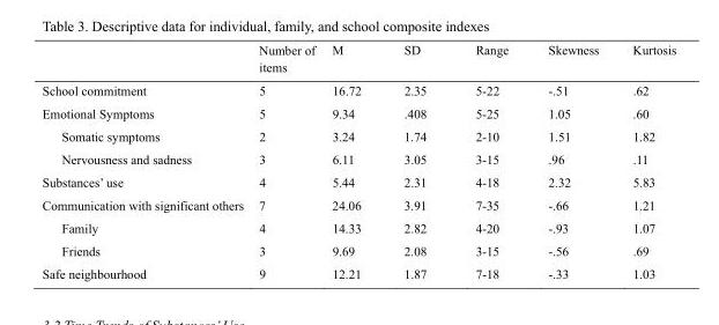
<table><thead><tr><td></td><td>Number of items</td><td>M</td><td>SD</td><td>Range</td><td>Skewness</td><td>Kurtosis</td></tr></thead><tbody><tr><td>School commitment</td><td>5</td><td>16.72</td><td>2.35</td><td>5-22</td><td>-.51</td><td>.62</td></tr><tr><td>Emotional Symptoms</td><td>5</td><td>9.34</td><td>.408</td><td>5-25</td><td>1.05</td><td>.60</td></tr><tr><td>Somatic symptoms</td><td>2</td><td>3.24</td><td>1.74</td><td>2-10</td><td>1.51</td><td>1.82</td></tr><tr><td>Nervousness and sadness</td><td>3</td><td>6.11</td><td>3.05</td><td>3-15</td><td>.96</td><td>.11</td></tr><tr><td>Substances’ use</td><td>4</td><td>5.44</td><td>2.31</td><td>4-18</td><td>2.32</td><td>5.83</td></tr><tr><td>Communication with significant others</td><td>7</td><td>24.06</td><td>3.91</td><td>7-35</td><td>-.66</td><td>1.21</td></tr><tr><td>Family</td><td>4</td><td>14.33</td><td>2.82</td><td>4-20</td><td>-.93</td><td>1.07</td></tr><tr><td>Friends</td><td>3</td><td>9.69</td><td>2.08</td><td>3-15</td><td>-.56</td><td>.69</td></tr><tr><td>Safe neighbourhood</td><td>9</td><td>12.21</td><td>1.87</td><td>7-18</td><td>-.33</td><td>1.03</td></tr></tbody></table>